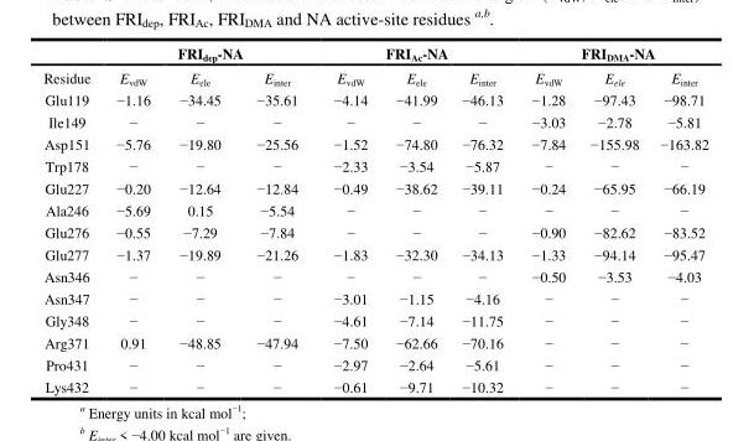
<table><thead><tr><td rowspan="2">Residue</td><td colspan="3">FRI<sub>dep</sub>-NA</td><td colspan="3">FRI<sub>Ac</sub>-NA</td><td colspan="3">FRI<sub>DMA</sub>-NA</td></tr><tr><td>E<sub>vdW</sub></td><td>E<sub>ele</sub></td><td>E<sub>inter</sub></td><td>E<sub>vdW</sub></td><td>E<sub>ele</sub></td><td>E<sub>inter</sub></td><td>E<sub>vdW</sub></td><td>E<sub>ele</sub></td><td>E<sub>inter</sub></td></tr></thead><tbody><tr><td>Glu119</td><td>−1.16</td><td>−34.45</td><td>−35.61</td><td>−4.14</td><td>−41.99</td><td>−46.13</td><td>−1.28</td><td>−97.43</td><td>−98.71</td></tr><tr><td>Ile149</td><td>−</td><td>−</td><td>−</td><td>−</td><td>−</td><td>−</td><td>−3.03</td><td>−2.78</td><td>−5.81</td></tr><tr><td>Asp151</td><td>−5.76</td><td>−19.80</td><td>−25.56</td><td>−1.52</td><td>−74.80</td><td>−76.32</td><td>−7.84</td><td>−155.98</td><td>−163.82</td></tr><tr><td>Trp178</td><td>−</td><td>−</td><td>−</td><td>−2.33</td><td>−3.54</td><td>−5.87</td><td>−</td><td>−</td><td>−</td></tr><tr><td>Glu227</td><td>−0.20</td><td>−12.64</td><td>−12.84</td><td>−0.49</td><td>−38.62</td><td>−39.11</td><td>−0.24</td><td>−65.95</td><td>−66.19</td></tr><tr><td>Ala246</td><td>−5.69</td><td>0.15</td><td>−5.54</td><td>−</td><td>−</td><td>−</td><td>−</td><td>−</td><td>−</td></tr><tr><td>Glu276</td><td>−0.55</td><td>−7.29</td><td>−7.84</td><td>−</td><td>−</td><td>−</td><td>−0.90</td><td>−82.62</td><td>−83.52</td></tr><tr><td>Glu277</td><td>−1.37</td><td>−19.89</td><td>−21.26</td><td>−1.83</td><td>−32.30</td><td>−34.13</td><td>−1.33</td><td>−94.14</td><td>−95.47</td></tr><tr><td>Asn346</td><td>−</td><td>−</td><td>−</td><td>−</td><td>−</td><td>−</td><td>−0.50</td><td>−3.53</td><td>−4.03</td></tr><tr><td>Asn347</td><td>−</td><td>−</td><td>−</td><td>−3.01</td><td>−1.15</td><td>−4.16</td><td>−</td><td>−</td><td>−</td></tr><tr><td>Gly348</td><td>−</td><td>−</td><td>−</td><td>−4.61</td><td>−7.14</td><td>−11.75</td><td>−</td><td>−</td><td>−</td></tr><tr><td>Arg371</td><td>0.91</td><td>−48.85</td><td>−47.94</td><td>−7.50</td><td>−62.66</td><td>−70.16</td><td>−</td><td>−</td><td>−</td></tr><tr><td>Pro431</td><td>−</td><td>−</td><td>−</td><td>−2.97</td><td>−2.64</td><td>−5.61</td><td>−</td><td>−</td><td>−</td></tr><tr><td>Lys432</td><td>−</td><td>−</td><td>−</td><td>−0.61</td><td>−9.71</td><td>−10.32</td><td>−</td><td>−</td><td>−</td></tr></tbody></table>